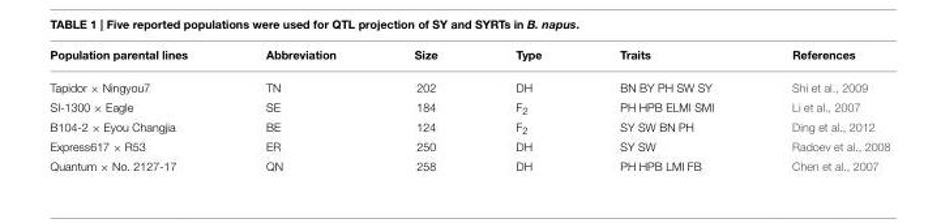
<table><thead><tr><td>Population parental lines</td><td>Abbreviation</td><td>Size</td><td>Type</td><td>Traits</td><td>References</td></tr></thead><tbody><tr><td>Tapidor × Ningyou7</td><td>TN</td><td>202</td><td>DH</td><td>BN BY PH SW SY</td><td>Shi et al., 2009</td></tr><tr><td>SI-1300 × Eagle</td><td>SE</td><td>184</td><td>F<sub>2</sub></td><td>PH HPB ELMI SMI</td><td>Li et al., 2007</td></tr><tr><td>B104-2 × Eyou Changjia</td><td>BE</td><td>124</td><td>F<sub>2</sub></td><td>SY SW BN PH</td><td>Ding et al., 2012</td></tr><tr><td>Express617 × R53</td><td>ER</td><td>250</td><td>DH</td><td>SY SW</td><td>Radoev et al., 2008</td></tr><tr><td>Quantum × No. 2127-17</td><td>QN</td><td>258</td><td>DH</td><td>PH HPB LMI FB</td><td>Chen et al., 2007</td></tr></tbody></table>